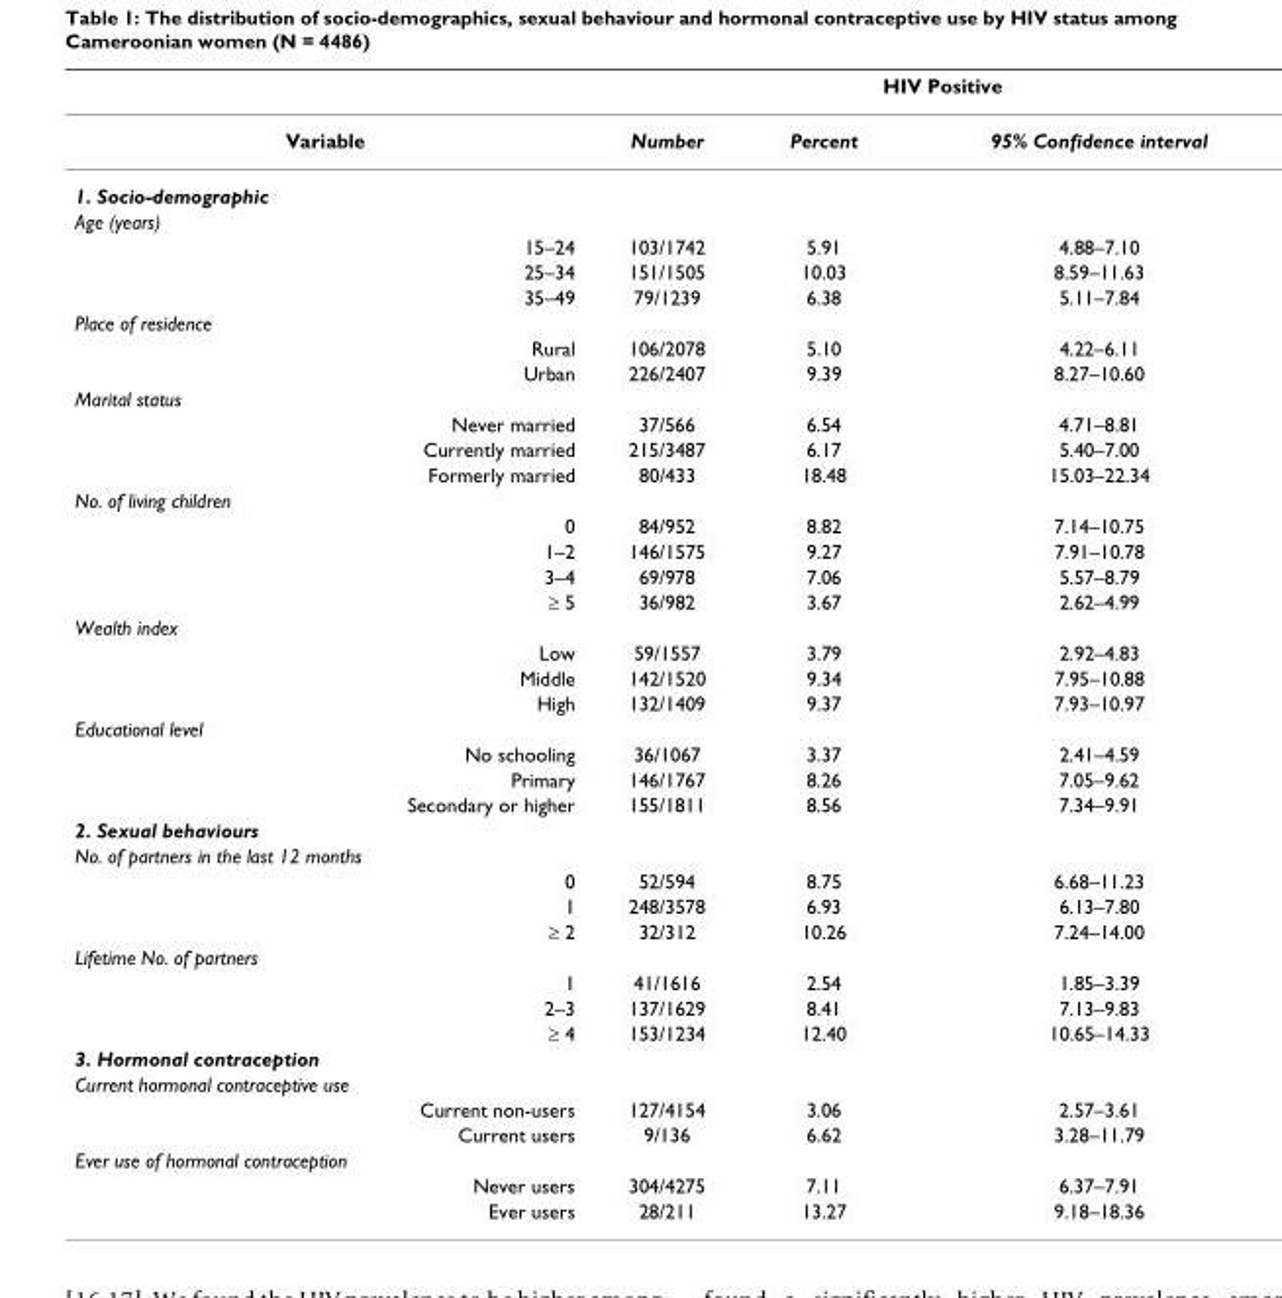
<table><thead><tr><td rowspan="2">Variable</td><td colspan="3">HIV Positive</td></tr><tr><td>Number</td><td>Percent</td><td>95% Confidence interval</td></tr></thead><tbody><tr><td colspan="4">1. Socio-demographic</td></tr><tr><td colspan="4">Age (years)</td></tr><tr><td>15–24</td><td>103/1742</td><td>5.91</td><td>4.88–7.10</td></tr><tr><td>25–34</td><td>151/1505</td><td>10.03</td><td>8.59–11.63</td></tr><tr><td>35–49</td><td>79/1239</td><td>6.38</td><td>5.11–7.84</td></tr><tr><td colspan="4">Place of residence</td></tr><tr><td>Rural</td><td>106/2078</td><td>5.10</td><td>4.22–6.11</td></tr><tr><td>Urban</td><td>226/2407</td><td>9.39</td><td>8.27–10.60</td></tr><tr><td colspan="4">Marital status</td></tr><tr><td>Never married</td><td>37/566</td><td>6.54</td><td>4.71–8.81</td></tr><tr><td>Currently married</td><td>215/3487</td><td>6.17</td><td>5.40–7.00</td></tr><tr><td>Formerly married</td><td>80/433</td><td>18.48</td><td>15.03–22.34</td></tr><tr><td colspan="4">No. of living children</td></tr><tr><td>0</td><td>84/952</td><td>8.82</td><td>7.14–10.75</td></tr><tr><td>1–2</td><td>146/1575</td><td>9.27</td><td>7.91–10.78</td></tr><tr><td>3–4</td><td>69/978</td><td>7.06</td><td>5.57–8.79</td></tr><tr><td>≥ 5</td><td>36/982</td><td>3.67</td><td>2.62–4.99</td></tr><tr><td colspan="4">Wealth index</td></tr><tr><td>Low</td><td>59/1557</td><td>3.79</td><td>2.92–4.83</td></tr><tr><td>Middle</td><td>142/1520</td><td>9.34</td><td>7.95–10.88</td></tr><tr><td>High</td><td>132/1409</td><td>9.37</td><td>7.93–10.97</td></tr><tr><td colspan="4">Educational level</td></tr><tr><td>No schooling</td><td>36/1067</td><td>3.37</td><td>2.41–4.59</td></tr><tr><td>Primary</td><td>146/1767</td><td>8.26</td><td>7.05–9.62</td></tr><tr><td>Secondary or higher</td><td>155/1811</td><td>8.56</td><td>7.34–9.91</td></tr><tr><td colspan="4">2. Sexual behaviours</td></tr><tr><td colspan="4">No. of partners in the last 12 months</td></tr><tr><td>0</td><td>52/594</td><td>8.75</td><td>6.68–11.23</td></tr><tr><td>1</td><td>248/3578</td><td>6.93</td><td>6.13–7.80</td></tr><tr><td>≥ 2</td><td>32/312</td><td>10.26</td><td>7.24–14.00</td></tr><tr><td colspan="4">Lifetime No. of partners</td></tr><tr><td>1</td><td>41/1616</td><td>2.54</td><td>1.85–3.39</td></tr><tr><td>2–3</td><td>137/1629</td><td>8.41</td><td>7.13–9.83</td></tr><tr><td>≥ 4</td><td>153/1234</td><td>12.40</td><td>10.65–14.33</td></tr><tr><td colspan="4">3. Hormonal contraception</td></tr><tr><td colspan="4">Current hormonal contraceptive use</td></tr><tr><td>Current non-users</td><td>127/4154</td><td>3.06</td><td>2.57–3.61</td></tr><tr><td>Current users</td><td>9/136</td><td>6.62</td><td>3.28–11.79</td></tr><tr><td colspan="4">Ever use of hormonal contraception</td></tr><tr><td>Never users</td><td>304/4275</td><td>7.11</td><td>6.37–7.91</td></tr><tr><td>Ever users</td><td>28/211</td><td>13.27</td><td>9.18–18.36</td></tr></tbody></table>